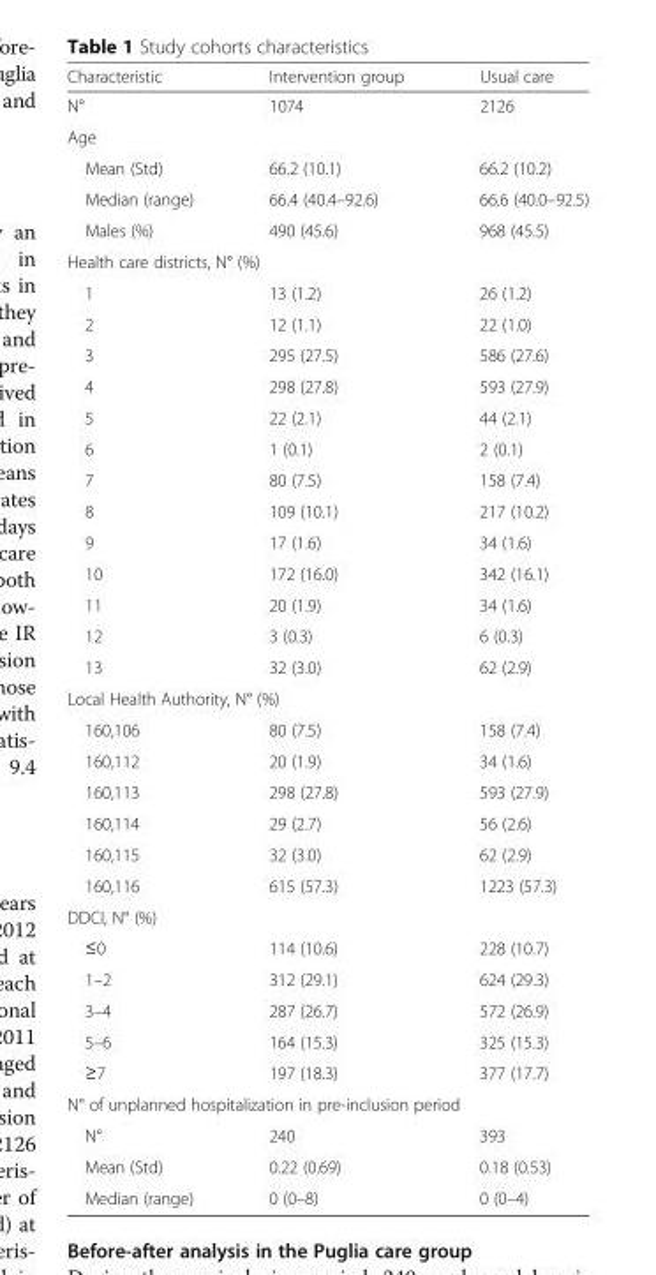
<table><thead><tr><td>Characteristic</td><td>Intervention group</td><td>Usual care</td></tr></thead><tbody><tr><td>N°</td><td>1074</td><td>2126</td></tr><tr><td colspan="3">Age</td></tr><tr><td>Mean (Std)</td><td>66.2 (10.1)</td><td>66.2 (10.2)</td></tr><tr><td>Median (range)</td><td>66.4 (40.4–92.6)</td><td>66.6 (40.0–92.5)</td></tr><tr><td>Males (%)</td><td>490 (45.6)</td><td>968 (45.5)</td></tr><tr><td colspan="3">Health care districts, N° (%)</td></tr><tr><td>1</td><td>13 (1.2)</td><td>26 (1.2)</td></tr><tr><td>2</td><td>12 (1.1)</td><td>22 (1.0)</td></tr><tr><td>3</td><td>295 (27.5)</td><td>586 (27.6)</td></tr><tr><td>4</td><td>298 (27.8)</td><td>593 (27.9)</td></tr><tr><td>5</td><td>22 (2.1)</td><td>44 (2.1)</td></tr><tr><td>6</td><td>1 (0.1)</td><td>2 (0.1)</td></tr><tr><td>7</td><td>80 (7.5)</td><td>158 (7.4)</td></tr><tr><td>8</td><td>109 (10.1)</td><td>217 (10.2)</td></tr><tr><td>9</td><td>17 (1.6)</td><td>34 (1.6)</td></tr><tr><td>10</td><td>172 (16.0)</td><td>342 (16.1)</td></tr><tr><td>11</td><td>20 (1.9)</td><td>34 (1.6)</td></tr><tr><td>12</td><td>3 (0.3)</td><td>6 (0.3)</td></tr><tr><td>13</td><td>32 (3.0)</td><td>62 (2.9)</td></tr><tr><td colspan="3">Local Health Authority, N° (%)</td></tr><tr><td>160,106</td><td>80 (7.5)</td><td>158 (7.4)</td></tr><tr><td>160,112</td><td>20 (1.9)</td><td>34 (1.6)</td></tr><tr><td>160,113</td><td>298 (27.8)</td><td>593 (27.9)</td></tr><tr><td>160,114</td><td>29 (2.7)</td><td>56 (2.6)</td></tr><tr><td>160,115</td><td>32 (3.0)</td><td>62 (2.9)</td></tr><tr><td>160,116</td><td>615 (57.3)</td><td>1223 (57.3)</td></tr><tr><td colspan="3">DDCI, N° (%)</td></tr><tr><td>≤0</td><td>114 (10.6)</td><td>228 (10.7)</td></tr><tr><td>1–2</td><td>312 (29.1)</td><td>624 (29.3)</td></tr><tr><td>3–4</td><td>287 (26.7)</td><td>572 (26.9)</td></tr><tr><td>5–6</td><td>164 (15.3)</td><td>325 (15.3)</td></tr><tr><td>≥7</td><td>197 (18.3)</td><td>377 (17.7)</td></tr><tr><td colspan="3">N° of unplanned hospitalization in pre-inclusion period</td></tr><tr><td>N°</td><td>240</td><td>393</td></tr><tr><td>Mean (Std)</td><td>0.22 (0.69)</td><td>0.18 (0.53)</td></tr><tr><td>Median (range)</td><td>0 (0–8)</td><td>0 (0–4)</td></tr></tbody></table>